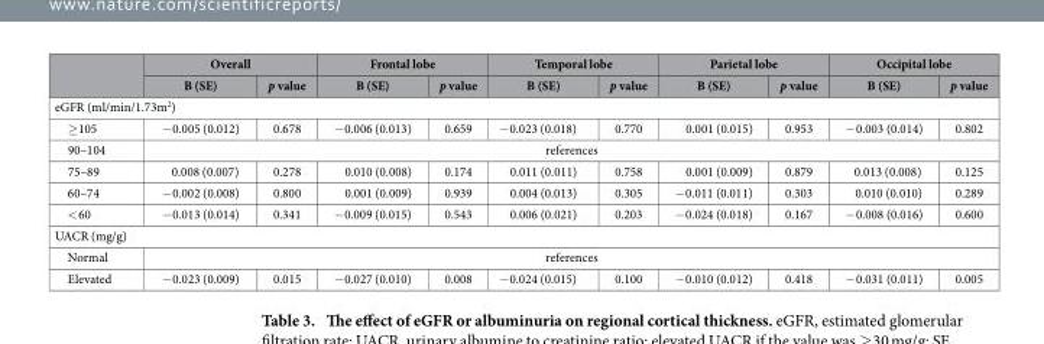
<table><thead><tr><td rowspan="2"></td><td colspan="2">Overall</td><td colspan="2">Frontal lobe</td><td colspan="2">Temporal lobe</td><td colspan="2">Parietal lobe</td><td colspan="2">Occipital lobe</td></tr><tr><td>B (SE)</td><td>p value</td><td>B (SE)</td><td>p value</td><td>B (SE)</td><td>p value</td><td>B (SE)</td><td>p value</td><td>B (SE)</td><td>p value</td></tr></thead><tbody><tr><td colspan="11">eGFR (ml/min/1.73m<sup>2</sup>)</td></tr><tr><td>≥ 105</td><td>− 0.005 (0.012)</td><td>0.678</td><td>− 0.006 (0.013)</td><td>0.659</td><td>− 0.023 (0.018)</td><td>0.770</td><td>0.001 (0.015)</td><td>0.953</td><td>− 0.003 (0.014)</td><td>0.802</td></tr><tr><td>90–104</td><td colspan="10">references</td></tr><tr><td>75–89</td><td>0.008 (0.007)</td><td>0.278</td><td>0.010 (0.008)</td><td>0.174</td><td>0.011 (0.011)</td><td>0.758</td><td>0.001 (0.009)</td><td>0.879</td><td>0.013 (0.008)</td><td>0.125</td></tr><tr><td>60–74</td><td>− 0.002 (0.008)</td><td>0.800</td><td>0.001 (0.009)</td><td>0.939</td><td>0.004 (0.013)</td><td>0.305</td><td>− 0.011 (0.011)</td><td>0.303</td><td>0.010 (0.010)</td><td>0.289</td></tr><tr><td>&lt; 60</td><td>− 0.013 (0.014)</td><td>0.341</td><td>− 0.009 (0.015)</td><td>0.543</td><td>0.006 (0.021)</td><td>0.203</td><td>− 0.024 (0.018)</td><td>0.167</td><td>− 0.008 (0.016)</td><td>0.600</td></tr><tr><td colspan="11">UACR (mg/g)</td></tr><tr><td>Normal</td><td colspan="10">references</td></tr><tr><td>Elevated</td><td>− 0.023 (0.009)</td><td>0.015</td><td>− 0.027 (0.010)</td><td>0.008</td><td>− 0.024 (0.015)</td><td>0.100</td><td>− 0.010 (0.012)</td><td>0.418</td><td>− 0.031 (0.011)</td><td>0.005</td></tr></tbody></table>